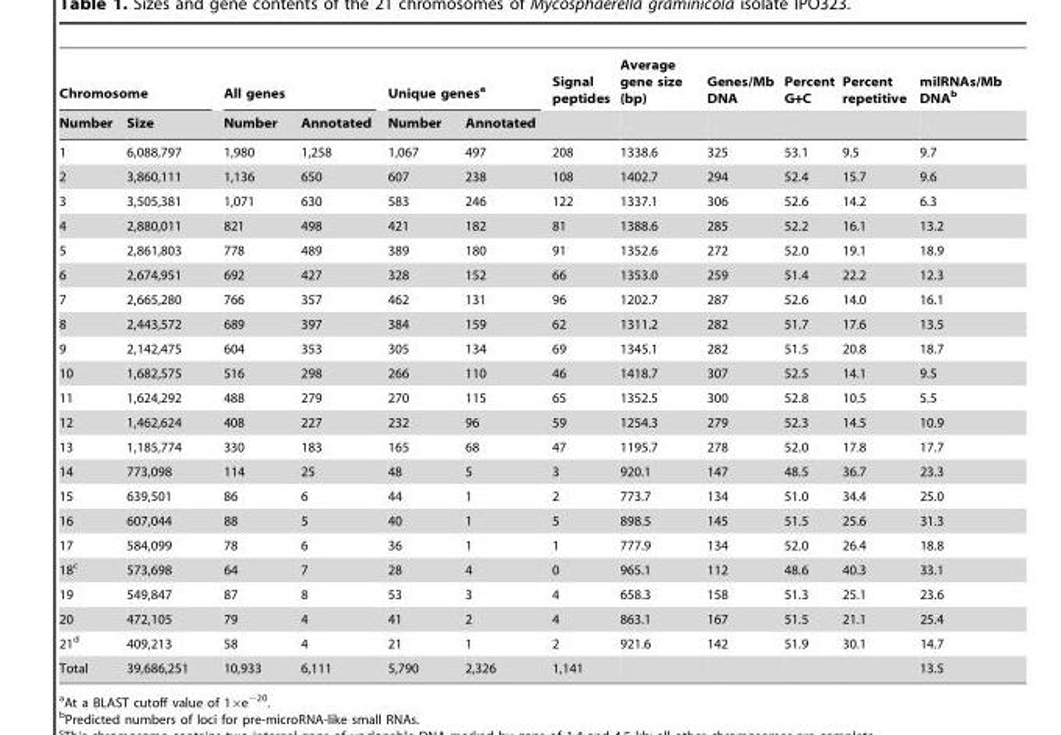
<table><thead><tr><td colspan="2">Chromosome</td><td colspan="2">All genes</td><td colspan="2">Unique genes<sup>a</sup></td><td rowspan="2">Signal peptides</td><td rowspan="2">Average gene size (bp)</td><td rowspan="2">Genes/Mb DNA</td><td rowspan="2">Percent G+C</td><td rowspan="2">Percent repetitive</td><td rowspan="2">milRNAs/Mb DNA<sup>b</sup></td></tr><tr><td>Number</td><td>Size</td><td>Number</td><td>Annotated</td><td>Number</td><td>Annotated</td></tr></thead><tbody><tr><td>1</td><td>6,088,797</td><td>1,980</td><td>1,258</td><td>1,067</td><td>497</td><td>208</td><td>1338.6</td><td>325</td><td>53.1</td><td>9.5</td><td>9.7</td></tr><tr><td>2</td><td>3,860,111</td><td>1,136</td><td>650</td><td>607</td><td>238</td><td>108</td><td>1402.7</td><td>294</td><td>52.4</td><td>15.7</td><td>9.6</td></tr><tr><td>3</td><td>3,505,381</td><td>1,071</td><td>630</td><td>583</td><td>246</td><td>122</td><td>1337.1</td><td>306</td><td>52.6</td><td>14.2</td><td>6.3</td></tr><tr><td>4</td><td>2,880,011</td><td>821</td><td>498</td><td>421</td><td>182</td><td>81</td><td>1388.6</td><td>285</td><td>52.2</td><td>16.1</td><td>13.2</td></tr><tr><td>5</td><td>2,861,803</td><td>778</td><td>489</td><td>389</td><td>180</td><td>91</td><td>1352.6</td><td>272</td><td>52.0</td><td>19.1</td><td>18.9</td></tr><tr><td>6</td><td>2,674,951</td><td>692</td><td>427</td><td>328</td><td>152</td><td>66</td><td>1353.0</td><td>259</td><td>51.4</td><td>22.2</td><td>12.3</td></tr><tr><td>7</td><td>2,665,280</td><td>766</td><td>357</td><td>462</td><td>131</td><td>96</td><td>1202.7</td><td>287</td><td>52.6</td><td>14.0</td><td>16.1</td></tr><tr><td>8</td><td>2,443,572</td><td>689</td><td>397</td><td>384</td><td>159</td><td>62</td><td>1311.2</td><td>282</td><td>51.7</td><td>17.6</td><td>13.5</td></tr><tr><td>9</td><td>2,142,475</td><td>604</td><td>353</td><td>305</td><td>134</td><td>69</td><td>1345.1</td><td>282</td><td>51.5</td><td>20.8</td><td>18.7</td></tr><tr><td>10</td><td>1,682,575</td><td>516</td><td>298</td><td>266</td><td>110</td><td>46</td><td>1418.7</td><td>307</td><td>52.5</td><td>14.1</td><td>9.5</td></tr><tr><td>11</td><td>1,624,292</td><td>488</td><td>279</td><td>270</td><td>115</td><td>65</td><td>1352.5</td><td>300</td><td>52.8</td><td>10.5</td><td>5.5</td></tr><tr><td>12</td><td>1,462,624</td><td>408</td><td>227</td><td>232</td><td>96</td><td>59</td><td>1254.3</td><td>279</td><td>52.3</td><td>14.5</td><td>10.9</td></tr><tr><td>13</td><td>1,185,774</td><td>330</td><td>183</td><td>165</td><td>68</td><td>47</td><td>1195.7</td><td>278</td><td>52.0</td><td>17.8</td><td>17.7</td></tr><tr><td>14</td><td>773,098</td><td>114</td><td>25</td><td>48</td><td>5</td><td>3</td><td>920.1</td><td>147</td><td>48.5</td><td>36.7</td><td>23.3</td></tr><tr><td>15</td><td>639,501</td><td>86</td><td>6</td><td>44</td><td>1</td><td>2</td><td>773.7</td><td>134</td><td>51.0</td><td>34.4</td><td>25.0</td></tr><tr><td>16</td><td>607,044</td><td>88</td><td>5</td><td>40</td><td>1</td><td>5</td><td>898.5</td><td>145</td><td>51.5</td><td>25.6</td><td>31.3</td></tr><tr><td>17</td><td>584,099</td><td>78</td><td>6</td><td>36</td><td>1</td><td>1</td><td>777.9</td><td>134</td><td>52.0</td><td>26.4</td><td>18.8</td></tr><tr><td>18<sup>c</sup></td><td>573,698</td><td>64</td><td>7</td><td>28</td><td>4</td><td>0</td><td>965.1</td><td>112</td><td>48.6</td><td>40.3</td><td>33.1</td></tr><tr><td>19</td><td>549,847</td><td>87</td><td>8</td><td>53</td><td>3</td><td>4</td><td>658.3</td><td>158</td><td>51.3</td><td>25.1</td><td>23.6</td></tr><tr><td>20</td><td>472,105</td><td>79</td><td>4</td><td>41</td><td>2</td><td>4</td><td>863.1</td><td>167</td><td>51.5</td><td>21.1</td><td>25.4</td></tr><tr><td>21<sup>d</sup></td><td>409,213</td><td>58</td><td>4</td><td>21</td><td>1</td><td>2</td><td>921.6</td><td>142</td><td>51.9</td><td>30.1</td><td>14.7</td></tr><tr><td>Total</td><td>39,686,251</td><td>10,933</td><td>6,111</td><td>5,790</td><td>2,326</td><td>1,141</td><td></td><td></td><td></td><td></td><td>13.5</td></tr></tbody></table>